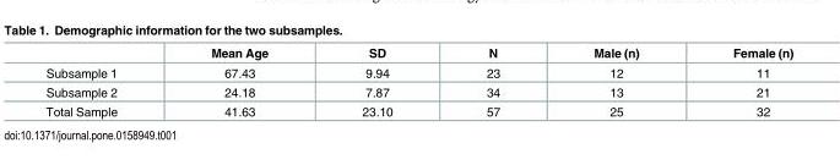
<table><thead><tr><td></td><td>Mean Age</td><td>SD</td><td>N</td><td>Male (n)</td><td>Female (n)</td></tr></thead><tbody><tr><td>Subsample 1</td><td>67.43</td><td>9.94</td><td>23</td><td>12</td><td>11</td></tr><tr><td>Subsample 2</td><td>24.18</td><td>7.87</td><td>34</td><td>13</td><td>21</td></tr><tr><td>Total Sample</td><td>41.63</td><td>23.10</td><td>57</td><td>25</td><td>32</td></tr></tbody></table>